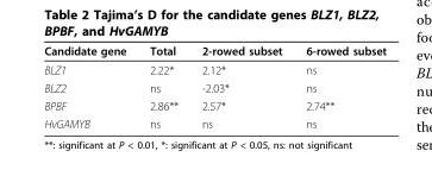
<table><thead><tr><td>Candidate gene</td><td>Total</td><td>2-rowed subset</td><td>6-rowed subset</td></tr></thead><tbody><tr><td>BLZ1</td><td>2.22*</td><td>2.12*</td><td>ns</td></tr><tr><td>BLZ2</td><td>ns</td><td>-2.03*</td><td>ns</td></tr><tr><td>BPBF</td><td>2.86**</td><td>2.57*</td><td>2.74**</td></tr><tr><td>HvGAMYB</td><td>ns</td><td>ns</td><td>ns</td></tr></tbody></table>